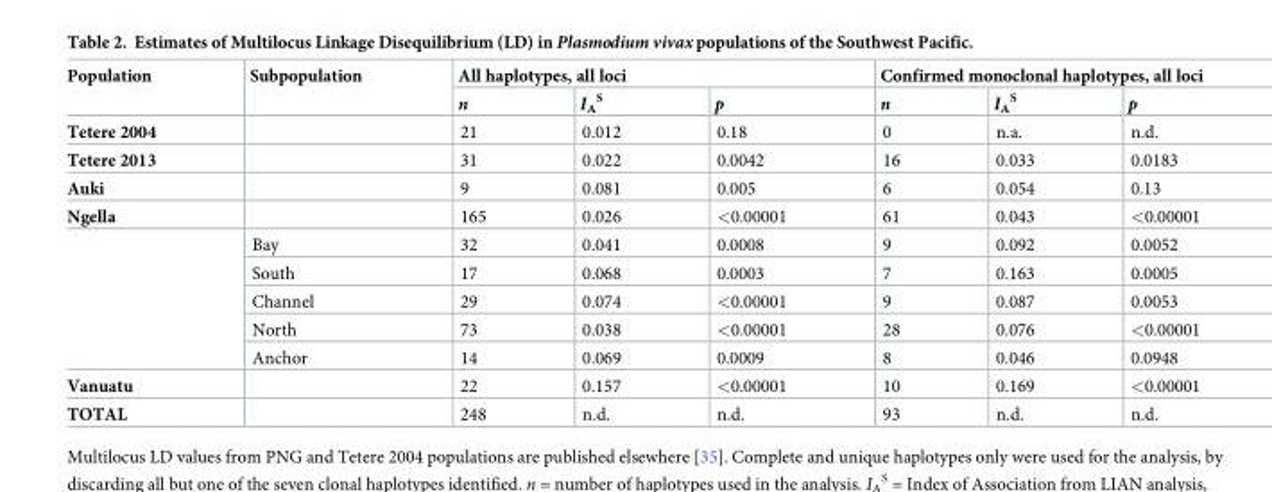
<table><thead><tr><td rowspan="2">Population</td><td rowspan="2">Subpopulation</td><td colspan="3">All haplotypes, all loci</td><td colspan="3">Confirmed monoclonal haplotypes, all loci</td></tr><tr><td>n</td><td>I<sub>A</sub> <sup>S</sup></td><td>p</td><td>n</td><td>I<sub>A</sub> <sup>S</sup></td><td>p</td></tr></thead><tbody><tr><td>Tetere 2004</td><td></td><td>21</td><td>0.012</td><td>0.18</td><td>0</td><td>n.a.</td><td>n.d.</td></tr><tr><td>Tetere 2013</td><td></td><td>31</td><td>0.022</td><td>0.0042</td><td>16</td><td>0.033</td><td>0.0183</td></tr><tr><td>Auki</td><td></td><td>9</td><td>0.081</td><td>0.005</td><td>6</td><td>0.054</td><td>0.13</td></tr><tr><td rowspan="6">Ngella</td><td></td><td>165</td><td>0.026</td><td>&lt;0.00001</td><td>61</td><td>0.043</td><td>&lt;0.00001</td></tr><tr><td>Bay</td><td>32</td><td>0.041</td><td>0.0008</td><td>9</td><td>0.092</td><td>0.0052</td></tr><tr><td>South</td><td>17</td><td>0.068</td><td>0.0003</td><td>7</td><td>0.163</td><td>0.0005</td></tr><tr><td>Channel</td><td>29</td><td>0.074</td><td>&lt;0.00001</td><td>9</td><td>0.087</td><td>0.0053</td></tr><tr><td>North</td><td>73</td><td>0.038</td><td>&lt;0.00001</td><td>28</td><td>0.076</td><td>&lt;0.00001</td></tr><tr><td>Anchor</td><td>14</td><td>0.069</td><td>0.0009</td><td>8</td><td>0.046</td><td>0.0948</td></tr><tr><td>Vanuatu</td><td></td><td>22</td><td>0.157</td><td>&lt;0.00001</td><td>10</td><td>0.169</td><td>&lt;0.00001</td></tr><tr><td>TOTAL</td><td></td><td>248</td><td>n.d.</td><td>n.d.</td><td>93</td><td>n.d.</td><td>n.d.</td></tr></tbody></table>